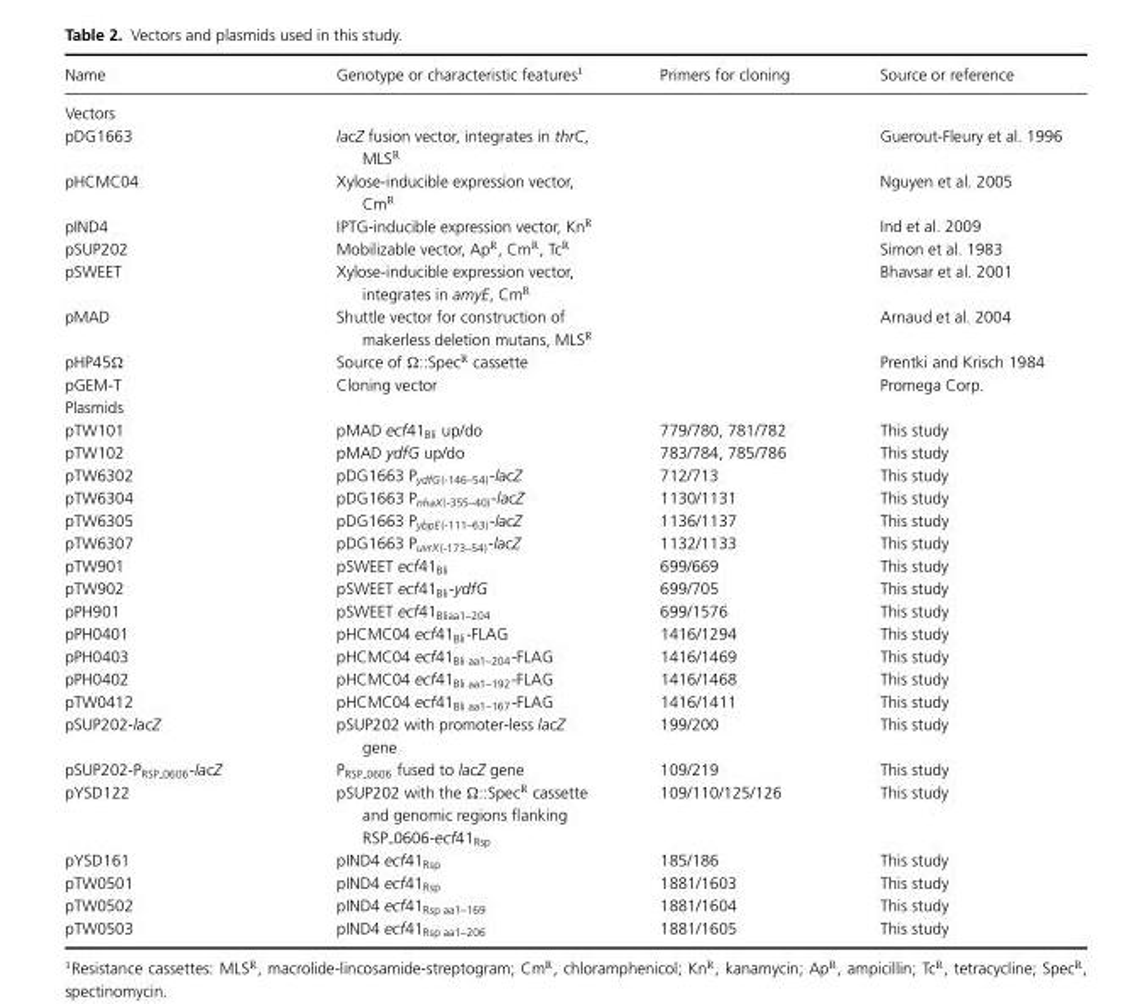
<table><thead><tr><td>Name</td><td>Genotype or characteristic features<sup>1</sup></td><td>Primers for cloning</td><td>Source or reference</td></tr></thead><tbody><tr><td colspan="4">Vectors</td></tr><tr><td>pDG1663</td><td>lacZ fusion vector, integrates in thrC, MLS<sup>R</sup></td><td></td><td>Guerout-Fleury et al. 1996</td></tr><tr><td>pHCMC04</td><td>Xylose-inducible expression vector, Cm<sup>R</sup></td><td></td><td>Nguyen et al. 2005</td></tr><tr><td>pIND4</td><td>IPTG-inducible expression vector, Kn<sup>R</sup></td><td></td><td>Ind et al. 2009</td></tr><tr><td>pSUP202</td><td>Mobilizable vector, Ap<sup>R</sup>, Cm<sup>R</sup>, Tc<sup>R</sup></td><td></td><td>Simon et al. 1983</td></tr><tr><td>pSWEET</td><td>Xylose-inducible expression vector, integrates in amyE, Cm<sup>R</sup></td><td></td><td>Bhavsar et al. 2001</td></tr><tr><td>pMAD</td><td>Shuttle vector for construction of makerless deletion mutans, MLS<sup>R</sup></td><td></td><td>Arnaud et al. 2004</td></tr><tr><td>pHP45Ω</td><td>Source of Ω::Spec<sup>R</sup> cassette</td><td></td><td>Prentki and Krisch 1984</td></tr><tr><td>pGEM-T</td><td>Cloning vector</td><td></td><td>Promega Corp.</td></tr><tr><td colspan="4">Plasmids</td></tr><tr><td>pTW101</td><td>pMAD ecf41<sub>Bli</sub> up/do</td><td>779/780, 781/782</td><td>This study</td></tr><tr><td>pTW102</td><td>pMAD ydfG up/do</td><td>783/784, 785/786</td><td>This study</td></tr><tr><td>pTW6302</td><td>pDG1663 P<sub>ydfG(-146–54)</sub>-lacZ</td><td>712/713</td><td>This study</td></tr><tr><td>pTW6304</td><td>pDG1663 P<sub>nhaX(-355–40)</sub>-lacZ</td><td>1130/1131</td><td>This study</td></tr><tr><td>pTW6305</td><td>pDG1663 P<sub>ybpE(-111–63)</sub>-lacZ</td><td>1136/1137</td><td>This study</td></tr><tr><td>pTW6307</td><td>pDG1663 P<sub>uvrX(-173–54)</sub>-lacZ</td><td>1132/1133</td><td>This study</td></tr><tr><td>pTW901</td><td>pSWEET ecf41<sub>Bli</sub></td><td>699/669</td><td>This study</td></tr><tr><td>pTW902</td><td>pSWEET ecf41<sub>Bli</sub>-ydfG</td><td>699/705</td><td>This study</td></tr><tr><td>pPH901</td><td>pSWEET ecf41<sub>Bliaa1–204</sub></td><td>699/1576</td><td>This study</td></tr><tr><td>pPH0401</td><td>pHCMC04 ecf41<sub>Bli</sub>-FLAG</td><td>1416/1294</td><td>This study</td></tr><tr><td>pPH0403</td><td>pHCMC04 ecf41<sub>Bli aa1–204</sub>-FLAG</td><td>1416/1469</td><td>This study</td></tr><tr><td>pPH0402</td><td>pHCMC04 ecf41<sub>Bli aa1–192</sub>-FLAG</td><td>1416/1468</td><td>This study</td></tr><tr><td>pTW0412</td><td>pHCMC04 ecf41<sub>Bli aa1–167</sub>-FLAG</td><td>1416/1411</td><td>This study</td></tr><tr><td>pSUP202-lacZ</td><td>pSUP202 with promoter-less lacZ gene</td><td>199/200</td><td>This study</td></tr><tr><td>pSUP202-PRSP 0606-lacZ</td><td>PRSP 0606 fused to lacZ gene</td><td>109/219</td><td>This study</td></tr><tr><td>pYSD122</td><td>pSUP202 with the �::SpecR cassette and genomic regions flanking RSP 0606-ecf41Rsp</td><td>109/110/125/126</td><td>This study</td></tr><tr><td>pYSD161</td><td>pIND4 ecf41<sub>Rsp</sub></td><td>185/186</td><td>This study</td></tr><tr><td>pTW0501</td><td>pIND4 ecf41<sub>Rsp</sub></td><td>1881/1603</td><td>This study</td></tr><tr><td>pTW0502</td><td>pIND4 ecf41<sub>Rsp aa1–169</sub></td><td>1881/1604</td><td>This study</td></tr><tr><td>pTW0503</td><td>pIND4 ecf41<sub>Rsp aa1–206</sub></td><td>1881/1605</td><td>This study</td></tr></tbody></table>